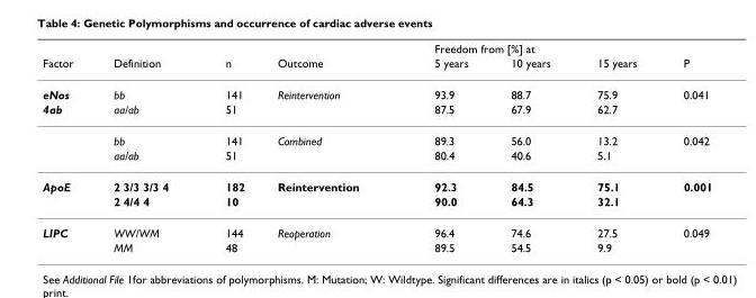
<table><thead><tr><td rowspan="2">Factor</td><td rowspan="2">Definition</td><td rowspan="2">n</td><td rowspan="2">Outcome</td><td colspan="4">Freedom from [%] at</td></tr><tr><td>5 years</td><td>10 years</td><td>15 years</td><td>P</td></tr></thead><tbody><tr><td>eNos</td><td>bb</td><td>141</td><td>Reintervention</td><td>93.9</td><td>88.7</td><td>75.9</td><td>0.041</td></tr><tr><td rowspan="3">4ab</td><td>aa/ab</td><td>51</td><td></td><td>87.5</td><td>67.9</td><td>62.7</td><td></td></tr><tr><td>bb</td><td>141</td><td>Combined</td><td>89.3</td><td>56.0</td><td>13.2</td><td>0.042</td></tr><tr><td>aa/ab</td><td>51</td><td></td><td>80.4</td><td>40.6</td><td>5.1</td><td></td></tr><tr><td rowspan="2">ApoE</td><td>2 3/3 3/3 4</td><td>182</td><td>Reintervention</td><td>92.3</td><td>84.5</td><td>75.1</td><td>0.001</td></tr><tr><td>2 4/4 4</td><td>10</td><td></td><td>90.0</td><td>64.3</td><td>32.1</td><td></td></tr><tr><td rowspan="2">LIPC</td><td>WW/WM</td><td>144</td><td>Reoperation</td><td>96.4</td><td>74.6</td><td>27.5</td><td>0.049</td></tr><tr><td>MM</td><td>48</td><td></td><td>89.5</td><td>54.5</td><td>9.9</td><td></td></tr></tbody></table>